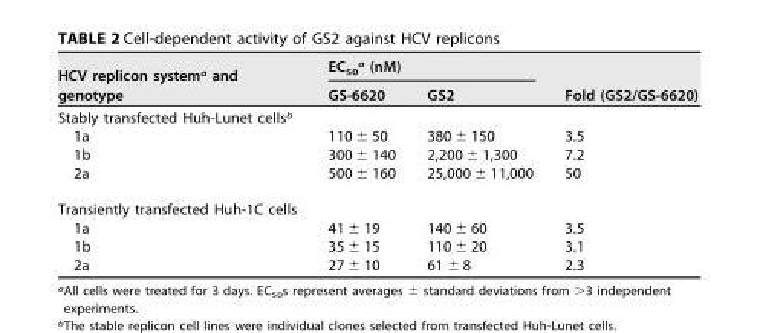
<table><thead><tr><td rowspan="2">HCV replicon system<sup>a</sup> and genotype</td><td colspan="2">EC<sub>50</sub><sup>a</sup> (nM)</td><td rowspan="2">Fold (GS2/GS-6620)</td></tr><tr><td>GS-6620</td><td>GS2</td></tr></thead><tbody><tr><td colspan="4">Stably transfected Huh-Lunet cells<sup>b</sup></td></tr><tr><td>1a</td><td>110 ± 50</td><td>380 ± 150</td><td>3.5</td></tr><tr><td>1b</td><td>300 ± 140</td><td>2,200 ± 1,300</td><td>7.2</td></tr><tr><td>2a</td><td>500 ± 160</td><td>25,000 ± 11,000</td><td>50</td></tr><tr><td colspan="4">Transiently transfected Huh-1C cells</td></tr><tr><td>1a</td><td>41 ± 19</td><td>140 ± 60</td><td>3.5</td></tr><tr><td>1b</td><td>35 ± 15</td><td>110 ± 20</td><td>3.1</td></tr><tr><td>2a</td><td>27 ± 10</td><td>61 ± 8</td><td>2.3</td></tr></tbody></table>